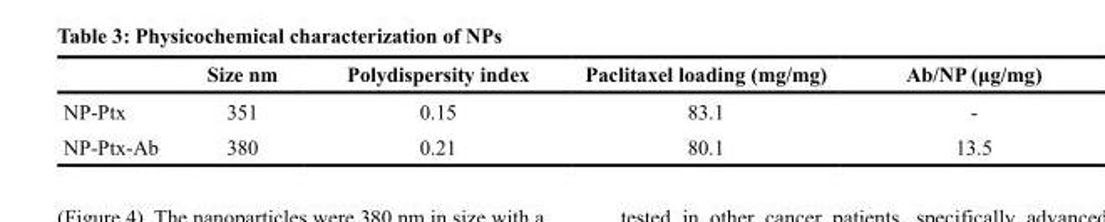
<table><thead><tr><td></td><td>Size nm</td><td>Polydispersity index</td><td>Paclitaxel loading (mg/mg)</td><td>Ab/NP (μg/mg)</td></tr></thead><tbody><tr><td>NP-Ptx</td><td>351</td><td>0.15</td><td>83.1</td><td>-</td></tr><tr><td>NP-Ptx-Ab</td><td>380</td><td>0.21</td><td>80.1</td><td>13.5</td></tr></tbody></table>